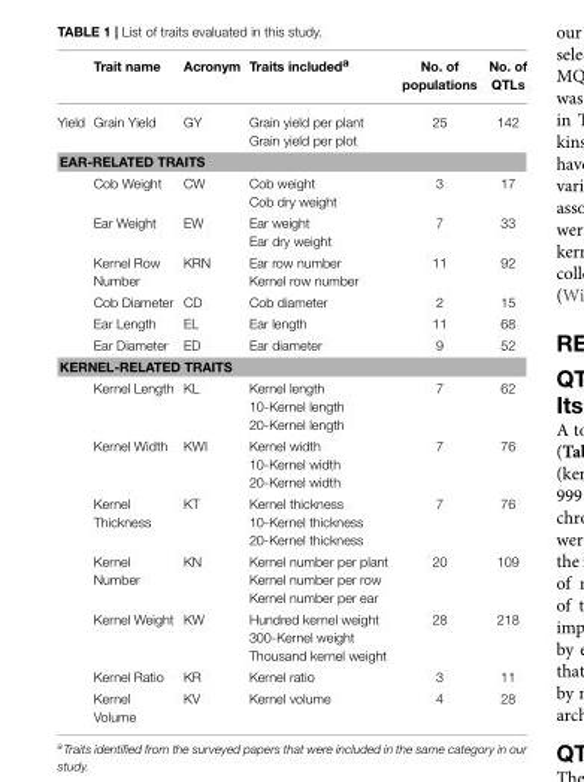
<table><thead><tr><td></td><td>Trait name</td><td>Acronym</td><td>Traits included<sup>a</sup></td><td>No. of populations</td><td>No. of QTLs</td></tr></thead><tbody><tr><td>Yield</td><td>Grain Yield</td><td>GY</td><td>Grain yield per plant Grain yield per plot</td><td>25</td><td>142</td></tr><tr><td colspan="6">EAR-RELATED TRAITS</td></tr><tr><td></td><td>Cob Weight</td><td>CW</td><td>Cob weight Cob dry weight</td><td>3</td><td>17</td></tr><tr><td></td><td>Ear Weight</td><td>EW</td><td>Ear weight Ear dry weight</td><td>7</td><td>33</td></tr><tr><td></td><td>Kernel Row Number</td><td>KRN</td><td>Ear row number Kernel row number</td><td>11</td><td>92</td></tr><tr><td></td><td>Cob Diameter</td><td>CD</td><td>Cob diameter</td><td>2</td><td>15</td></tr><tr><td></td><td>Ear Length</td><td>EL</td><td>Ear length</td><td>11</td><td>68</td></tr><tr><td></td><td>Ear Diameter</td><td>ED</td><td>Ear diameter</td><td>9</td><td>52</td></tr><tr><td colspan="6">KERNEL-RELATED TRAITS</td></tr><tr><td></td><td>Kernel Length</td><td>KL</td><td>Kernel length 10-Kernel length 20-Kernel length</td><td>7</td><td>62</td></tr><tr><td></td><td>Kernel Width</td><td>KWI</td><td>Kernel width 10-Kernel width 20-Kernel width</td><td>7</td><td>76</td></tr><tr><td></td><td>Kernel Thickness</td><td>KT</td><td>Kernel thickness 10-Kernel thickness 20-Kernel thickness</td><td>7</td><td>76</td></tr><tr><td></td><td>Kernel Number</td><td>KN</td><td>Kernel number per plant Kernel number per row Kernel number per ear</td><td>20</td><td>109</td></tr><tr><td></td><td>Kernel Weight</td><td>KW</td><td>Hundred kernel weight 300-Kernel weight Thousand kernel weight</td><td>28</td><td>218</td></tr><tr><td></td><td>Kernel Ratio</td><td>KR</td><td>Kernel ratio</td><td>3</td><td>11</td></tr><tr><td></td><td>Kernel Volume</td><td>KV</td><td>Kernel volume</td><td>4</td><td>28</td></tr></tbody></table>